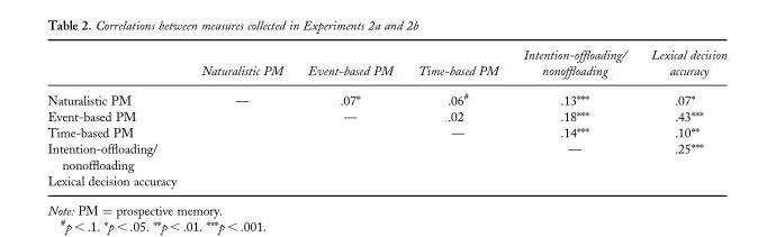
<table><thead><tr><td></td><td>Naturalistic PM</td><td>Event-based PM</td><td>Time-based PM</td><td>Intention-offloading/ nonoffloading</td><td>Lexical decision accuracy</td></tr></thead><tbody><tr><td>Naturalistic PM</td><td>—</td><td>.07*</td><td>.06<sup>#</sup></td><td>.13***</td><td>.07*</td></tr><tr><td>Event-based PM</td><td></td><td>—</td><td>.02</td><td>.18***</td><td>.43***</td></tr><tr><td>Time-based PM</td><td></td><td></td><td>—</td><td>.14***</td><td>.10**</td></tr><tr><td>Intention-offloading/ nonoffloading</td><td></td><td></td><td></td><td>—</td><td>.25***</td></tr><tr><td>Lexical decision accuracy</td><td></td><td></td><td></td><td></td><td></td></tr></tbody></table>